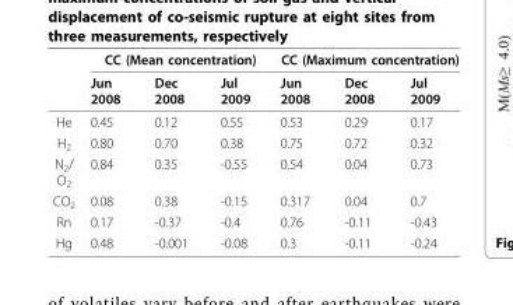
<table><thead><tr><td rowspan="2"></td><td colspan="3">CC (Mean concentration)</td><td colspan="3">CC (Maximum concentration)</td></tr><tr><td>Jun 2008</td><td>Dec 2008</td><td>Jul 2009</td><td>Jun 2008</td><td>Dec 2008</td><td>Jul 2009</td></tr></thead><tbody><tr><td>He</td><td>0.45</td><td>0.12</td><td>0.55</td><td>0.53</td><td>0.29</td><td>0.17</td></tr><tr><td>H<sub>2</sub></td><td>0.80</td><td>0.70</td><td>0.38</td><td>0.75</td><td>0.72</td><td>0.32</td></tr><tr><td>N<sub>2</sub>/ O<sub>2</sub></td><td>0.84</td><td>0.35</td><td>-0.55</td><td>0.54</td><td>0.04</td><td>0.73</td></tr><tr><td>CO<sub>2</sub></td><td>0.08</td><td>0.38</td><td>-0.15</td><td>0.317</td><td>0.04</td><td>0.7</td></tr><tr><td>Rn</td><td>0.17</td><td>-0.37</td><td>-0.4</td><td>0.76</td><td>-0.11</td><td>-0.43</td></tr><tr><td>Hg</td><td>0.48</td><td>-0.001</td><td>-0.08</td><td>0.3</td><td>-0.11</td><td>-0.24</td></tr></tbody></table>